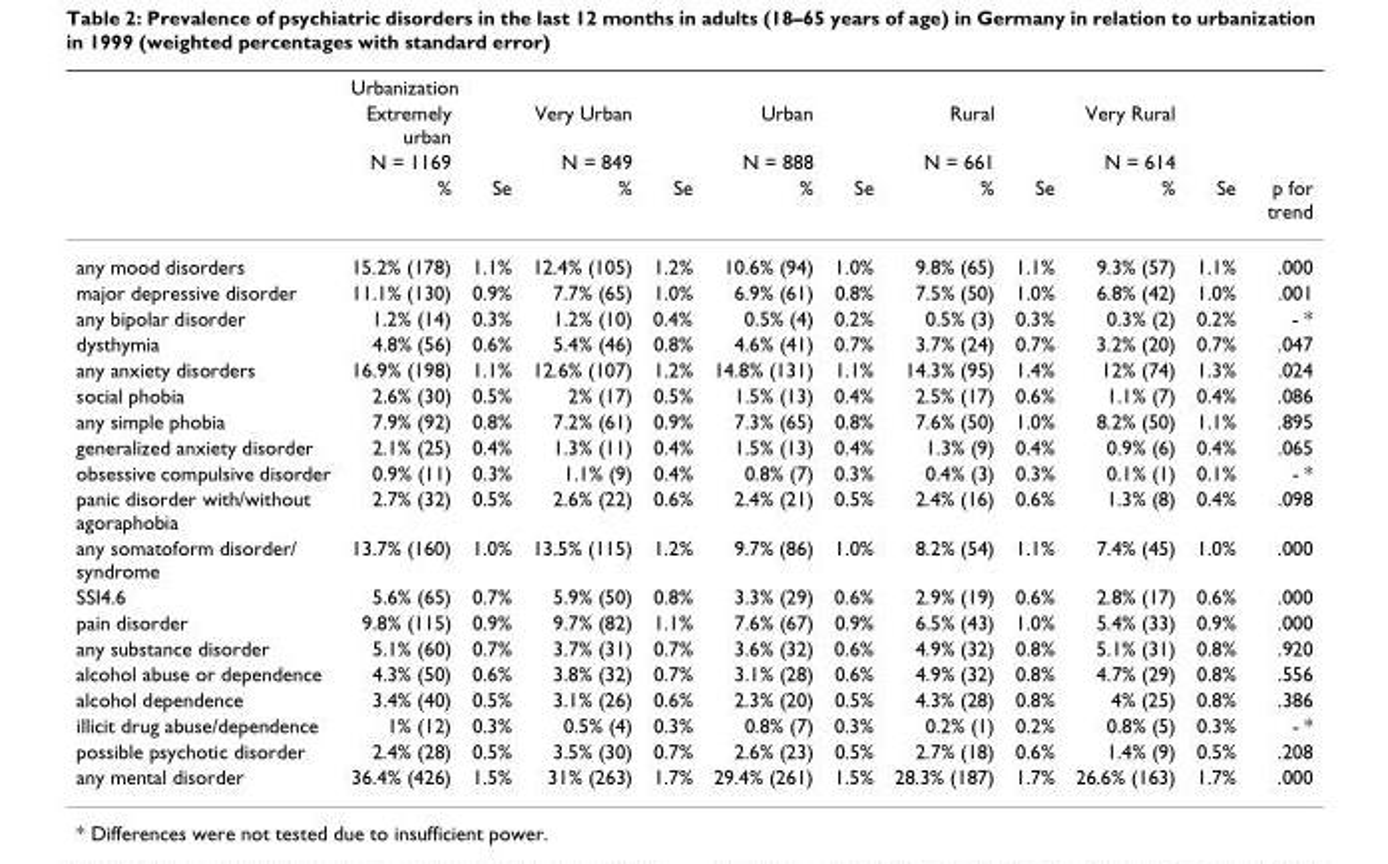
<table><thead><tr><td rowspan="4"></td><td colspan="11">Urbanization</td></tr><tr><td rowspan="3">Extremely urban N = 1169 %</td><td rowspan="3">Se</td><td rowspan="3">Very Urban N = 849 %</td><td rowspan="3">Se</td><td rowspan="3">Urban N = 888 %</td><td rowspan="3">Se</td><td rowspan="3">Rural N = 661 %</td><td rowspan="3">Se</td><td rowspan="3">Very Rural N = 614 %</td><td rowspan="3">Se</td><td rowspan="3">p for trend</td></tr><tr></tr><tr></tr></thead><tbody><tr><td>any mood disorders</td><td>15.2% (178)</td><td>1.1%</td><td>12.4% (105)</td><td>1.2%</td><td>10.6% (94)</td><td>1.0%</td><td>9.8% (65)</td><td>1.1%</td><td>9.3% (57)</td><td>1.1%</td><td>.000</td></tr><tr><td>major depressive disorder</td><td>11.1% (130)</td><td>0.9%</td><td>7.7% (65)</td><td>1.0%</td><td>6.9% (61)</td><td>0.8%</td><td>7.5% (50)</td><td>1.0%</td><td>6.8% (42)</td><td>1.0%</td><td>.001</td></tr><tr><td>any bipolar disorder</td><td>1.2% (14)</td><td>0.3%</td><td>1.2% (10)</td><td>0.4%</td><td>0.5% (4)</td><td>0.2%</td><td>0.5% (3)</td><td>0.3%</td><td>0.3% (2)</td><td>0.2%</td><td>- *</td></tr><tr><td>dysthymia</td><td>4.8% (56)</td><td>0.6%</td><td>5.4% (46)</td><td>0.8%</td><td>4.6% (41)</td><td>0.7%</td><td>3.7% (24)</td><td>0.7%</td><td>3.2% (20)</td><td>0.7%</td><td>.047</td></tr><tr><td>any anxiety disorders</td><td>16.9% (198)</td><td>1.1%</td><td>12.6% (107)</td><td>1.2%</td><td>14.8% (131)</td><td>1.1%</td><td>14.3% (95)</td><td>1.4%</td><td>12% (74)</td><td>1.3%</td><td>.024</td></tr><tr><td>social phobia</td><td>2.6% (30)</td><td>0.5%</td><td>2% (17)</td><td>0.5%</td><td>1.5% (13)</td><td>0.4%</td><td>2.5% (17)</td><td>0.6%</td><td>1.1% (7)</td><td>0.4%</td><td>.086</td></tr><tr><td>any simple phobia</td><td>7.9% (92)</td><td>0.8%</td><td>7.2% (61)</td><td>0.9%</td><td>7.3% (65)</td><td>0.8%</td><td>7.6% (50)</td><td>1.0%</td><td>8.2% (50)</td><td>1.1%</td><td>.895</td></tr><tr><td>generalized anxiety disorder</td><td>2.1% (25)</td><td>0.4%</td><td>1.3% (11)</td><td>0.4%</td><td>1.5% (13)</td><td>0.4%</td><td>1.3% (9)</td><td>0.4%</td><td>0.9% (6)</td><td>0.4%</td><td>.065</td></tr><tr><td>obsessive compulsive disorder</td><td>0.9% (11)</td><td>0.3%</td><td>1.1% (9)</td><td>0.4%</td><td>0.8% (7)</td><td>0.3%</td><td>0.4% (3)</td><td>0.3%</td><td>0.1% (1)</td><td>0.1%</td><td>- *</td></tr><tr><td>panic disorder with/without agoraphobia</td><td>2.7% (32)</td><td>0.5%</td><td>2.6% (22)</td><td>0.6%</td><td>2.4% (21)</td><td>0.5%</td><td>2.4% (16)</td><td>0.6%</td><td>1.3% (8)</td><td>0.4%</td><td>.098</td></tr><tr><td>any somatoform disorder/ syndrome</td><td>13.7% (160)</td><td>1.0%</td><td>13.5% (115)</td><td>1.2%</td><td>9.7% (86)</td><td>1.0%</td><td>8.2% (54)</td><td>1.1%</td><td>7.4% (45)</td><td>1.0%</td><td>.000</td></tr><tr><td>SSI4.6</td><td>5.6% (65)</td><td>0.7%</td><td>5.9% (50)</td><td>0.8%</td><td>3.3% (29)</td><td>0.6%</td><td>2.9% (19)</td><td>0.6%</td><td>2.8% (17)</td><td>0.6%</td><td>.000</td></tr><tr><td>pain disorder</td><td>9.8% (115)</td><td>0.9%</td><td>9.7% (82)</td><td>1.1%</td><td>7.6% (67)</td><td>0.9%</td><td>6.5% (43)</td><td>1.0%</td><td>5.4% (33)</td><td>0.9%</td><td>.000</td></tr><tr><td>any substance disorder</td><td>5.1% (60)</td><td>0.7%</td><td>3.7% (31)</td><td>0.7%</td><td>3.6% (32)</td><td>0.6%</td><td>4.9% (32)</td><td>0.8%</td><td>5.1% (31)</td><td>0.8%</td><td>.920</td></tr><tr><td>alcohol abuse or dependence</td><td>4.3% (50)</td><td>0.6%</td><td>3.8% (32)</td><td>0.7%</td><td>3.1% (28)</td><td>0.6%</td><td>4.9% (32)</td><td>0.8%</td><td>4.7% (29)</td><td>0.8%</td><td>.556</td></tr><tr><td>alcohol dependence</td><td>3.4% (40)</td><td>0.5%</td><td>3.1% (26)</td><td>0.6%</td><td>2.3% (20)</td><td>0.5%</td><td>4.3% (28)</td><td>0.8%</td><td>4% (25)</td><td>0.8%</td><td>.386</td></tr><tr><td>illicit drug abuse/dependence</td><td>1% (12)</td><td>0.3%</td><td>0.5% (4)</td><td>0.3%</td><td>0.8% (7)</td><td>0.3%</td><td>0.2% (1)</td><td>0.2%</td><td>0.8% (5)</td><td>0.3%</td><td>- *</td></tr><tr><td>possible psychotic disorder</td><td>2.4% (28)</td><td>0.5%</td><td>3.5% (30)</td><td>0.7%</td><td>2.6% (23)</td><td>0.5%</td><td>2.7% (18)</td><td>0.6%</td><td>1.4% (9)</td><td>0.5%</td><td>.208</td></tr><tr><td>any mental disorder</td><td>36.4% (426)</td><td>1.5%</td><td>31% (263)</td><td>1.7%</td><td>29.4% (261)</td><td>1.5%</td><td>28.3% (187)</td><td>1.7%</td><td>26.6% (163)</td><td>1.7%</td><td>.000</td></tr></tbody></table>